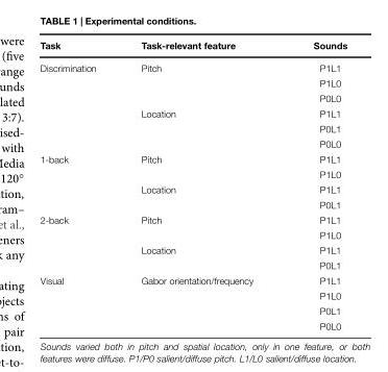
<table><thead><tr><td>Task</td><td>Task-relevant feature</td><td>Sounds</td></tr></thead><tbody><tr><td rowspan="6">Discrimination</td><td>Pitch</td><td>P1L1</td></tr><tr><td></td><td>P1L0</td></tr><tr><td></td><td>P0L0</td></tr><tr><td>Location</td><td>P1L1</td></tr><tr><td></td><td>P0L1</td></tr><tr><td></td><td>P0L0</td></tr><tr><td rowspan="4">1-back</td><td>Pitch</td><td>P1L1</td></tr><tr><td></td><td>P1L0</td></tr><tr><td>Location</td><td>P1L1</td></tr><tr><td></td><td>P0L1</td></tr><tr><td rowspan="4">2-back</td><td>Pitch</td><td>P1L1</td></tr><tr><td></td><td>P1L0</td></tr><tr><td>Location</td><td>P1L1</td></tr><tr><td></td><td>P0L1</td></tr><tr><td rowspan="4">Visual</td><td>Gabor orientation/frequency</td><td>P1L1</td></tr><tr><td></td><td>P1L0</td></tr><tr><td></td><td>P0L1</td></tr><tr><td></td><td>P0L0</td></tr></tbody></table>